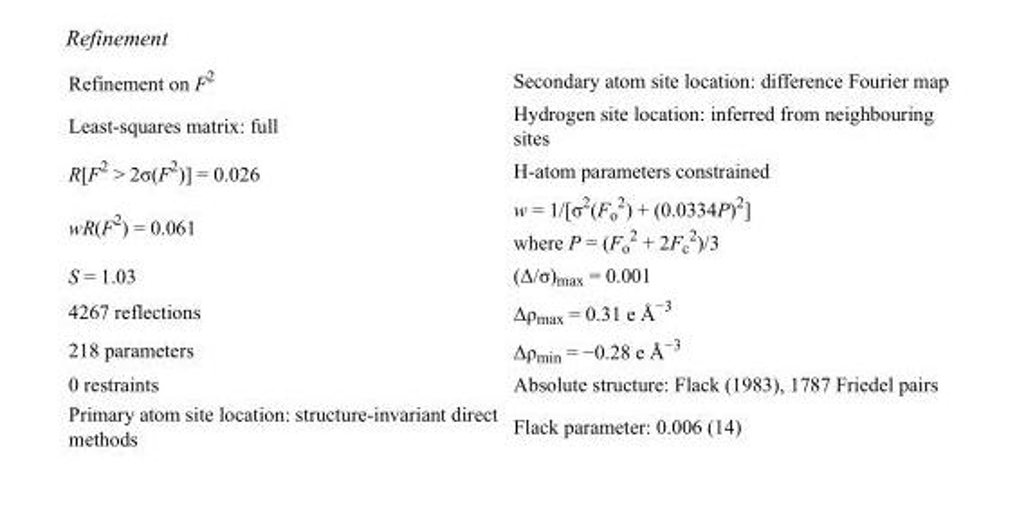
<table><tbody><tr><td>Refinement on F<sup>2</sup></td><td>Secondary atom site location: difference Fourier map</td></tr><tr><td>Least-squares matrix: full</td><td>Hydrogen site location: inferred from neighbouring sites</td></tr><tr><td>R[F<sup>2</sup> &gt; 2σ(F<sup>2</sup>)] = 0.026</td><td>H-atom parameters constrained</td></tr><tr><td>wR(F<sup>2</sup>) = 0.061</td><td>w = 1/[σ<sup>2</sup>(F<sub>o</sub> <sup>2</sup>) + (0.0334P)<sup>2</sup>] where P = (F<sub>o</sub> <sup>2</sup> + 2F<sub>c</sub> <sup>2</sup>)/3</td></tr><tr><td>S = 1.03</td><td>(Δ/σ)<sub>max</sub> = 0.001</td></tr><tr><td>4267 reflections</td><td>Δρ<sub>max</sub> = 0.31 e Å<sup>−3</sup></td></tr><tr><td>218 parameters</td><td>Δρ<sub>min</sub> = −0.28 e Å<sup>−3</sup></td></tr><tr><td>0 restraints</td><td>Absolute structure: Flack (1983), 1787 Friedel pairs</td></tr><tr><td>Primary atom site location: structure-invariant direct methods</td><td>Flack parameter: 0.006 (14)</td></tr></tbody></table>